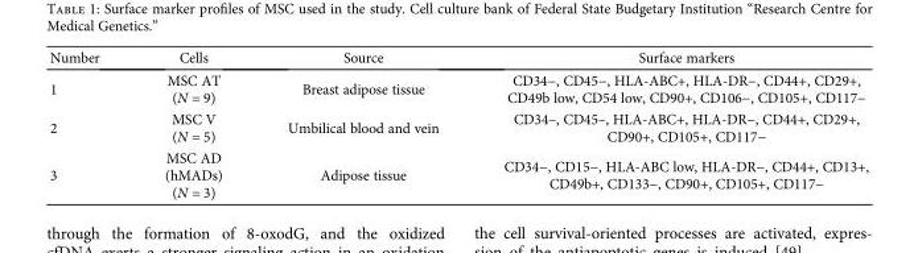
<table><thead><tr><td>Number</td><td>Cells</td><td>Source</td><td>Surface markers</td></tr></thead><tbody><tr><td>1</td><td>MSC AT (N = 9)</td><td>Breast adipose tissue</td><td>CD34−, CD45−, HLA-ABC+, HLA-DR−, CD44+, CD29+, CD49b low, CD54 low, CD90+, CD106−, CD105+, CD117−</td></tr><tr><td>2</td><td>MSC V (N = 5)</td><td>Umbilical blood and vein</td><td>CD34–, CD45–, HLA-ABC+, HLA-DR−, CD44+, CD29+, CD90+, CD105+, CD117−</td></tr><tr><td>3</td><td>MSC AD (hMADs) (N = 3)</td><td>Adipose tissue</td><td>CD34−, CD15−, HLA-ABC low, HLA-DR−, CD44+, CD13+, CD49b+, CD133−, CD90+, CD105+, CD117−</td></tr></tbody></table>